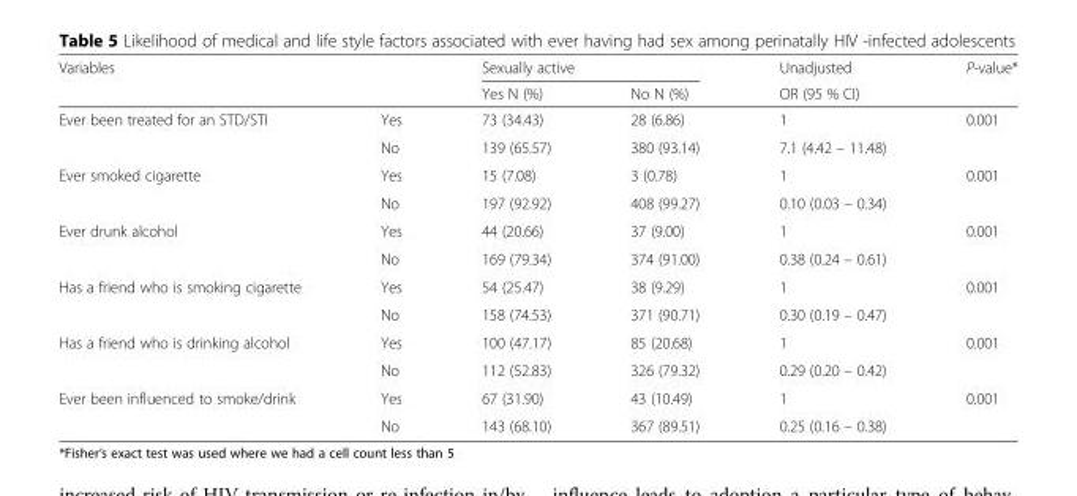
<table><thead><tr><td rowspan="2">Variables</td><td rowspan="2"></td><td colspan="2">Sexually active</td><td rowspan="2">Unadjusted OR (95 % CI)</td><td rowspan="2">P-value*</td></tr><tr><td>Yes N (%)</td><td>No N (%)</td></tr></thead><tbody><tr><td rowspan="2">Ever been treated for an STD/STI</td><td>Yes</td><td>73 (34.43)</td><td>28 (6.86)</td><td>1</td><td rowspan="2">0.001</td></tr><tr><td>No</td><td>139 (65.57)</td><td>380 (93.14)</td><td>7.1 (4.42 – 11.48)</td></tr><tr><td rowspan="2">Ever smoked cigarette</td><td>Yes</td><td>15 (7.08)</td><td>3 (0.78)</td><td>1</td><td rowspan="2">0.001</td></tr><tr><td>No</td><td>197 (92.92)</td><td>408 (99.27)</td><td>0.10 (0.03 – 0.34)</td></tr><tr><td rowspan="2">Ever drunk alcohol</td><td>Yes</td><td>44 (20.66)</td><td>37 (9.00)</td><td>1</td><td rowspan="2">0.001</td></tr><tr><td>No</td><td>169 (79.34)</td><td>374 (91.00)</td><td>0.38 (0.24 – 0.61)</td></tr><tr><td rowspan="2">Has a friend who is smoking cigarette</td><td>Yes</td><td>54 (25.47)</td><td>38 (9.29)</td><td>1</td><td rowspan="2">0.001</td></tr><tr><td>No</td><td>158 (74.53)</td><td>371 (90.71)</td><td>0.30 (0.19 – 0.47)</td></tr><tr><td rowspan="2">Has a friend who is drinking alcohol</td><td>Yes</td><td>100 (47.17)</td><td>85 (20.68)</td><td>1</td><td rowspan="2">0.001</td></tr><tr><td>No</td><td>112 (52.83)</td><td>326 (79.32)</td><td>0.29 (0.20 – 0.42)</td></tr><tr><td rowspan="2">Ever been influenced to smoke/drink</td><td>Yes</td><td>67 (31.90)</td><td>43 (10.49)</td><td>1</td><td rowspan="2">0.001</td></tr><tr><td>No</td><td>143 (68.10)</td><td>367 (89.51)</td><td>0.25 (0.16 – 0.38)</td></tr></tbody></table>